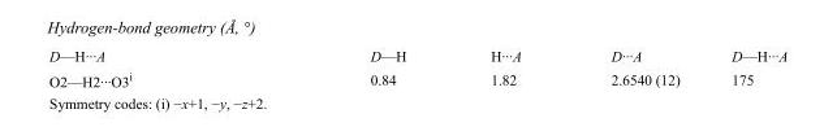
<table><tbody><tr><td>D—H···A</td><td>D—H</td><td>H···A</td><td>D···A</td><td>D—H···A</td></tr><tr><td>O2—H2···O3<sup>i</sup></td><td>0.84</td><td>1.82</td><td>2.6540 (12)</td><td>175</td></tr></tbody></table>